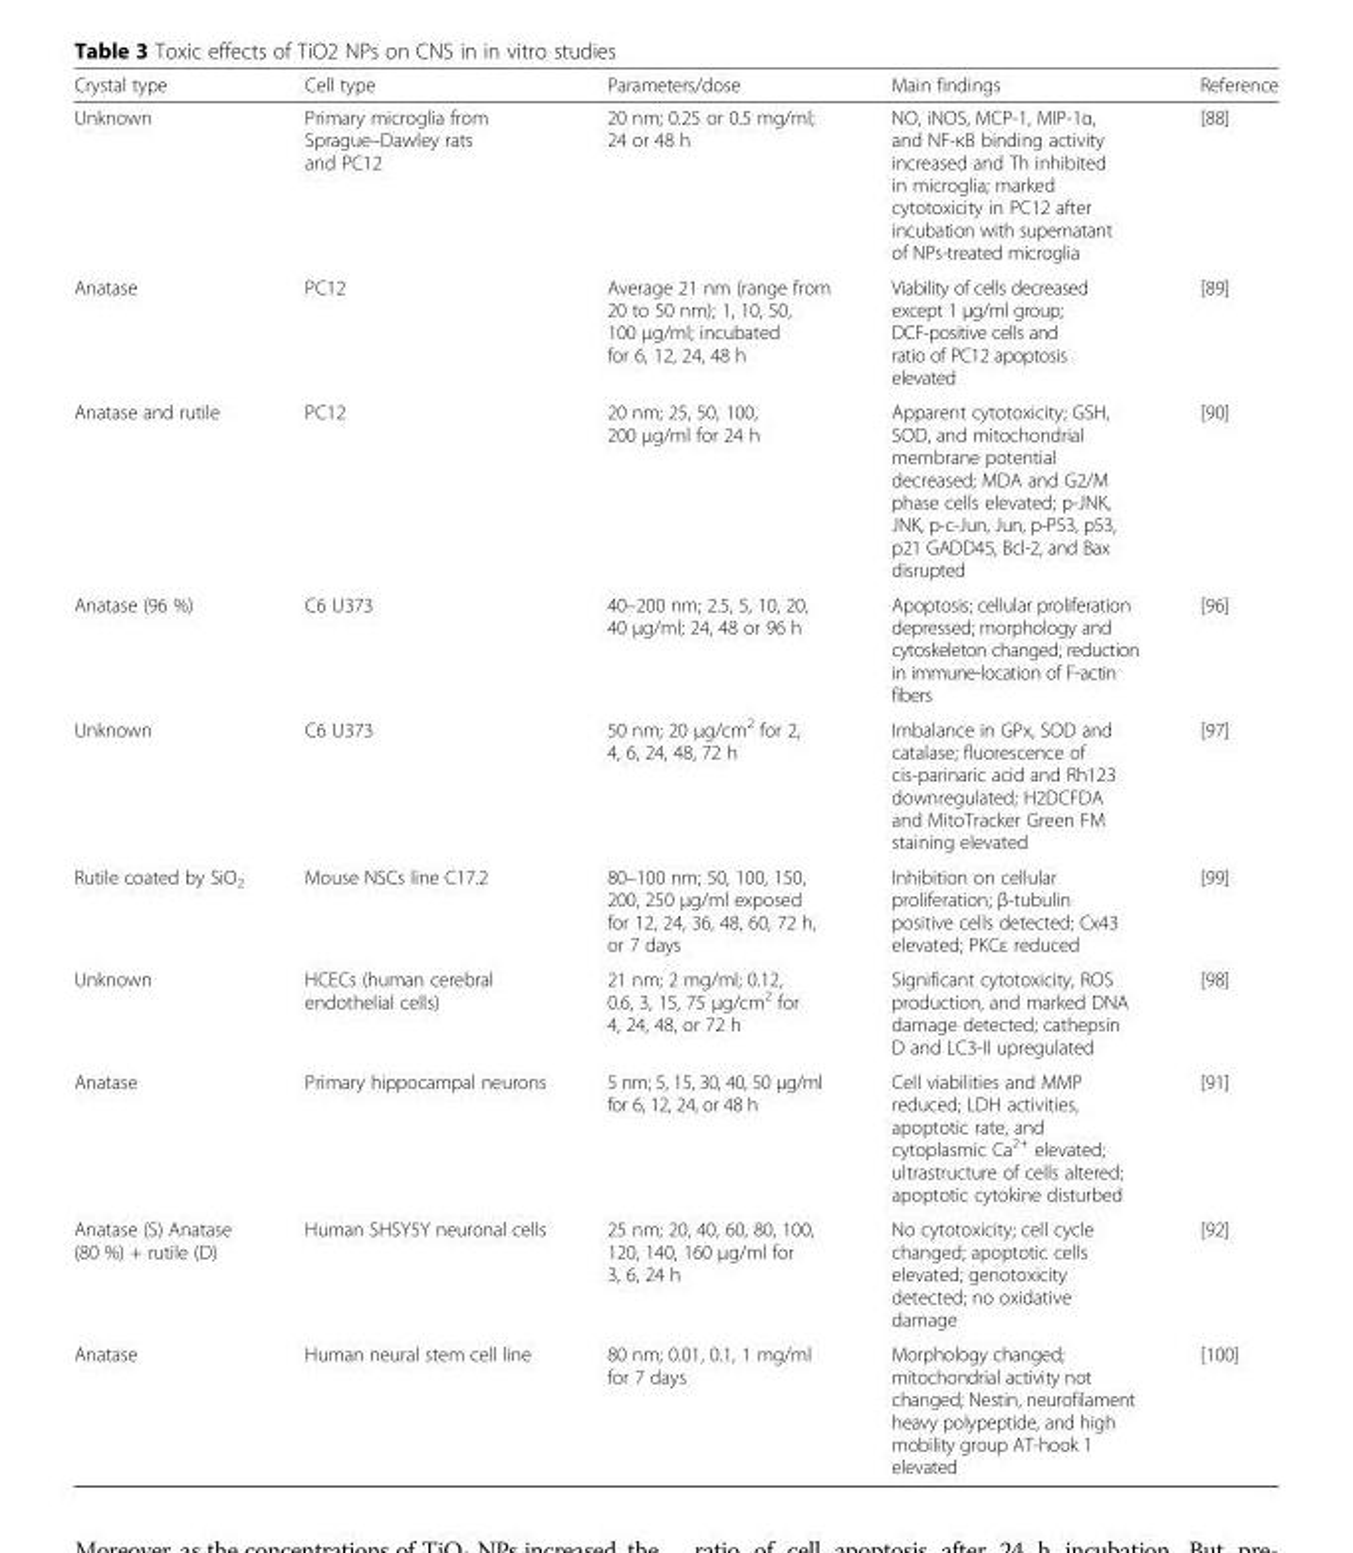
<table><thead><tr><td>Crystal type</td><td>Cell type</td><td>Parameters/dose</td><td>Main findings</td><td>Reference</td></tr></thead><tbody><tr><td>Unknown</td><td>Primary microglia from Sprague–Dawley rats and PC12</td><td>20 nm; 0.25 or 0.5 mg/ml; 24 or 48 h</td><td>NO, iNOS, MCP-1, MIP-1α, and NF-κB binding activity increased and Th inhibited in microglia; marked cytotoxicity in PC12 after incubation with supernatant of NPs-treated microglia</td><td>[88]</td></tr><tr><td>Anatase</td><td>PC12</td><td>Average 21 nm (range from 20 to 50 nm); 1, 10, 50, 100 μg/ml; incubated for 6, 12, 24, 48 h</td><td>Viability of cells decreased except 1 μg/ml group; DCF-positive cells and ratio of PC12 apoptosis elevated</td><td>[89]</td></tr><tr><td>Anatase and rutile</td><td>PC12</td><td>20 nm; 25, 50, 100, 200 μg/ml for 24 h</td><td>Apparent cytotoxicity; GSH, SOD, and mitochondrial membrane potential decreased; MDA and G2/M phase cells elevated; p-JNK, JNK, p-c-Jun, Jun, p-P53, p53, p21 GADD45, Bcl-2, and Bax disrupted</td><td>[90]</td></tr><tr><td>Anatase (96 %)</td><td>C6 U373</td><td>40–200 nm; 2.5, 5, 10, 20, 40 μg/ml; 24, 48 or 96 h</td><td>Apoptosis; cellular proliferation depressed; morphology and cytoskeleton changed; reduction in immune-location of F-actin fibers</td><td>[96]</td></tr><tr><td>Unknown</td><td>C6 U373</td><td>50 nm; 20 μg/cm<sup>2</sup> for 2, 4, 6, 24, 48, 72 h</td><td>Imbalance in GPx, SOD and catalase; fluorescence of cis-parinaric acid and Rh123 downregulated; H2DCFDA and MitoTracker Green FM staining elevated</td><td>[97]</td></tr><tr><td>Rutile coated by SiO<sub>2</sub></td><td>Mouse NSCs line C17.2</td><td>80–100 nm; 50, 100, 150, 200, 250 μg/ml exposed for 12, 24, 36, 48, 60, 72 h, or 7 days</td><td>Inhibition on cellular proliferation; β-tubulin positive cells detected; Cx43 elevated; PKCε reduced</td><td>[99]</td></tr><tr><td>Unknown</td><td>HCECs (human cerebral endothelial cells)</td><td>21 nm; 2 mg/ml; 0.12, 0.6, 3, 15, 75 μg/cm<sup>2</sup> for 4, 24, 48, or 72 h</td><td>Significant cytotoxicity, ROS production, and marked DNA damage detected; cathepsin D and LC3-II upregulated</td><td>[98]</td></tr><tr><td>Anatase</td><td>Primary hippocampal neurons</td><td>5 nm; 5, 15, 30, 40, 50 μg/ml for 6, 12, 24, or 48 h</td><td>Cell viabilities and MMP reduced; LDH activities, apoptotic rate, and cytoplasmic Ca<sup>2+</sup> elevated; ultrastructure of cells altered; apoptotic cytokine disturbed</td><td>[91]</td></tr><tr><td>Anatase (S) Anatase (80 %) + rutile (D)</td><td>Human SHSY5Y neuronal cells</td><td>25 nm; 20, 40, 60, 80, 100, 120, 140, 160 μg/ml for 3, 6, 24 h</td><td>No cytotoxicity; cell cycle changed; apoptotic cells elevated; genotoxicity detected; no oxidative damage</td><td>[92]</td></tr><tr><td>Anatase</td><td>Human neural stem cell line</td><td>80 nm; 0.01, 0.1, 1 mg/ml for 7 days</td><td>Morphology changed; mitochondrial activity not changed; Nestin, neurofilament heavy polypeptide, and high mobility group AT-hook 1 elevated</td><td>[100]</td></tr></tbody></table>